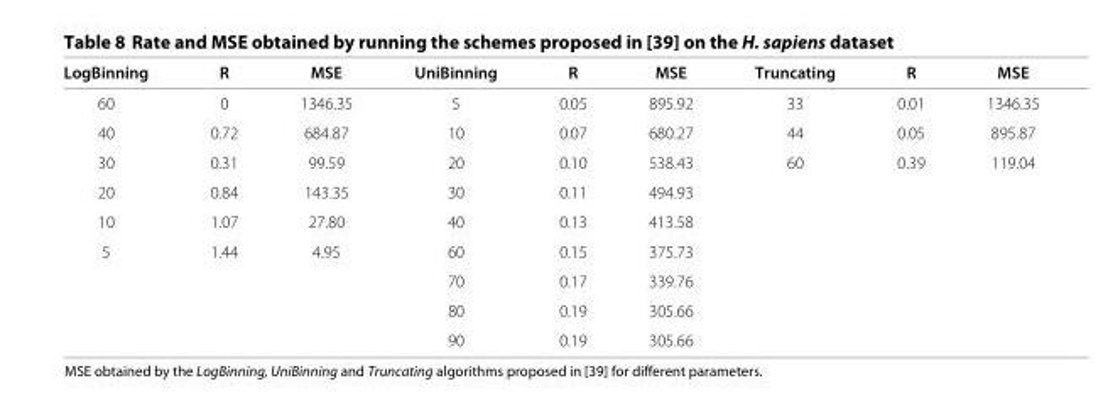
<table><thead><tr><td>LogBinning</td><td>R</td><td>MSE</td><td>UniBinning</td><td>R</td><td>MSE</td><td>Truncating</td><td>R</td><td>MSE</td></tr></thead><tbody><tr><td>60</td><td>0</td><td>1346.35</td><td>5</td><td>0.05</td><td>895.92</td><td>33</td><td>0.01</td><td>1346.35</td></tr><tr><td>40</td><td>0.72</td><td>684.87</td><td>10</td><td>0.07</td><td>680.27</td><td>44</td><td>0.05</td><td>895.87</td></tr><tr><td>30</td><td>0.31</td><td>99.59</td><td>20</td><td>0.10</td><td>538.43</td><td>60</td><td>0.39</td><td>119.04</td></tr><tr><td>20</td><td>0.84</td><td>143.35</td><td>30</td><td>0.11</td><td>494.93</td><td></td><td></td><td></td></tr><tr><td>10</td><td>1.07</td><td>27.80</td><td>40</td><td>0.13</td><td>413.58</td><td></td><td></td><td></td></tr><tr><td rowspan="4">5</td><td>1.44</td><td>4.95</td><td>60</td><td>0.15</td><td>375.73</td><td></td><td></td><td></td></tr><tr><td></td><td></td><td>70</td><td>0.17</td><td>339.76</td><td></td><td></td><td></td></tr><tr><td></td><td></td><td>80</td><td>0.19</td><td>305.66</td><td></td><td></td><td></td></tr><tr><td></td><td></td><td>90</td><td>0.19</td><td>305.66</td><td></td><td></td><td></td></tr></tbody></table>